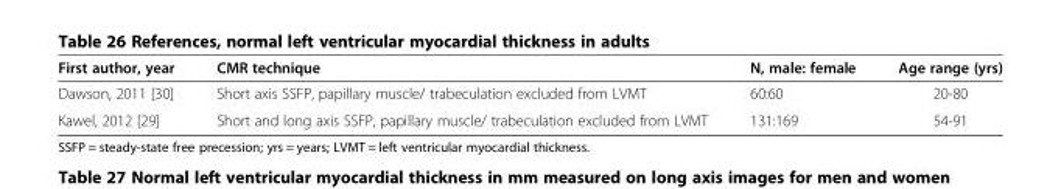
<table><thead><tr><td>First author, year</td><td>CMR technique</td><td>N, male: female</td><td>Age range (yrs)</td></tr></thead><tbody><tr><td>Dawson, 2011 [30]</td><td>Short axis SSFP, papillary muscle/ trabeculation excluded from LVMT</td><td>60:60</td><td>20-80</td></tr><tr><td>Kawel, 2012 [29]</td><td>Short and long axis SSFP, papillary muscle/ trabeculation excluded from LVMT</td><td>131:169</td><td>54-91</td></tr></tbody></table>